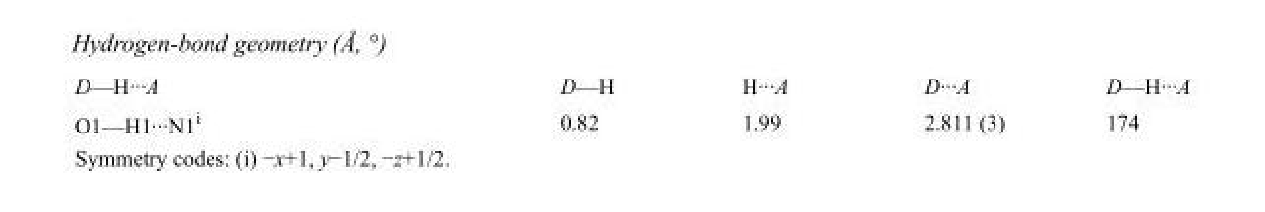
<table><tbody><tr><td>D—H···A</td><td>D—H</td><td>H···A</td><td>D···A</td><td>D—H···A</td></tr><tr><td>O1—H1···N1<sup>i</sup></td><td>0.82</td><td>1.99</td><td>2.811 (3)</td><td>174</td></tr></tbody></table>